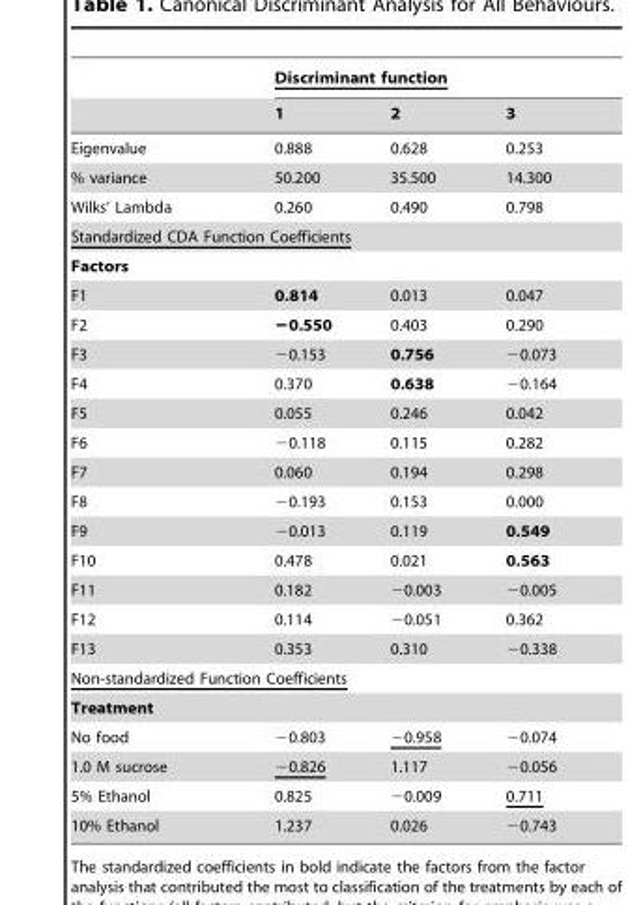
<table><thead><tr><td rowspan="2"></td><td colspan="3">Discriminant function</td></tr><tr><td>1</td><td>2</td><td>3</td></tr></thead><tbody><tr><td>Eigenvalue</td><td>0.888</td><td>0.628</td><td>0.253</td></tr><tr><td>% variance</td><td>50.200</td><td>35.500</td><td>14.300</td></tr><tr><td>Wilks’ Lambda</td><td>0.260</td><td>0.490</td><td>0.798</td></tr><tr><td colspan="4">Standardized CDA Function Coefficients</td></tr><tr><td colspan="4">Factors</td></tr><tr><td>F1</td><td>0.814</td><td>0.013</td><td>0.047</td></tr><tr><td>F2</td><td>−0.550</td><td>0.403</td><td>0.290</td></tr><tr><td>F3</td><td>−0.153</td><td>0.756</td><td>−0.073</td></tr><tr><td>F4</td><td>0.370</td><td>0.638</td><td>−0.164</td></tr><tr><td>F5</td><td>0.055</td><td>0.246</td><td>0.042</td></tr><tr><td>F6</td><td>−0.118</td><td>0.115</td><td>0.282</td></tr><tr><td>F7</td><td>0.060</td><td>0.194</td><td>0.298</td></tr><tr><td>F8</td><td>−0.193</td><td>0.153</td><td>0.000</td></tr><tr><td>F9</td><td>−0.013</td><td>0.119</td><td>0.549</td></tr><tr><td>F10</td><td>0.478</td><td>0.021</td><td>0.563</td></tr><tr><td>F11</td><td>0.182</td><td>−0.003</td><td>−0.005</td></tr><tr><td>F12</td><td>0.114</td><td>−0.051</td><td>0.362</td></tr><tr><td>F13</td><td>0.353</td><td>0.310</td><td>−0.338</td></tr><tr><td colspan="4">Non-standardized Function Coefficients</td></tr><tr><td colspan="4">Treatment</td></tr><tr><td>No food</td><td>−0.803</td><td>−0.958</td><td>−0.074</td></tr><tr><td>1.0 M sucrose</td><td>−0.826</td><td>1.117</td><td>−0.056</td></tr><tr><td>5% Ethanol</td><td>0.825</td><td>−0.009</td><td>0.711</td></tr><tr><td>10% Ethanol</td><td>1.237</td><td>0.026</td><td>−0.743</td></tr></tbody></table>